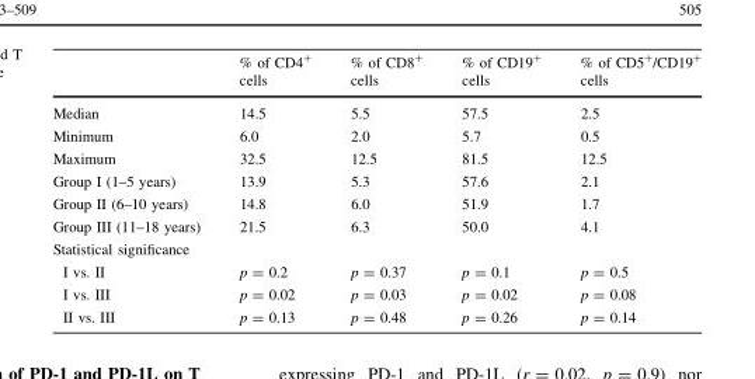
<table><thead><tr><td></td><td>% of CD4<sup>+</sup> cells</td><td>% of CD8<sup>+</sup> cells</td><td>% of CD19<sup>+</sup> cells</td><td>% of CD5<sup>+</sup>/CD19<sup>+</sup> cells</td></tr></thead><tbody><tr><td>Median</td><td>14.5</td><td>5.5</td><td>57.5</td><td>2.5</td></tr><tr><td>Minimum</td><td>6.0</td><td>2.0</td><td>5.7</td><td>0.5</td></tr><tr><td>Maximum</td><td>32.5</td><td>12.5</td><td>81.5</td><td>12.5</td></tr><tr><td>Group I (1–5 years)</td><td>13.9</td><td>5.3</td><td>57.6</td><td>2.1</td></tr><tr><td>Group II (6–10 years)</td><td>14.8</td><td>6.0</td><td>51.9</td><td>1.7</td></tr><tr><td>Group III (11–18 years)</td><td>21.5</td><td>6.3</td><td>50.0</td><td>4.1</td></tr><tr><td colspan="5">Statistical significance</td></tr><tr><td>I vs. II</td><td>p = 0.2</td><td>p = 0.37</td><td>p = 0.1</td><td>p = 0.5</td></tr><tr><td>I vs. III</td><td>p = 0.02</td><td>p = 0.03</td><td>p = 0.02</td><td>p = 0.08</td></tr><tr><td>II vs. III</td><td>p = 0.13</td><td>p = 0.48</td><td>p = 0.26</td><td>p = 0.14</td></tr></tbody></table>